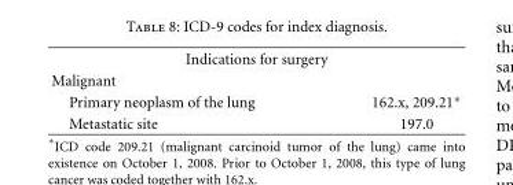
<table><tbody><tr><td colspan="2">Indications for surgery</td></tr><tr><td colspan="2">Malignant</td></tr><tr><td>Primary neoplasm of the lung</td><td>162.x, 209.21∗</td></tr><tr><td>Metastatic site</td><td>197.0</td></tr></tbody></table>